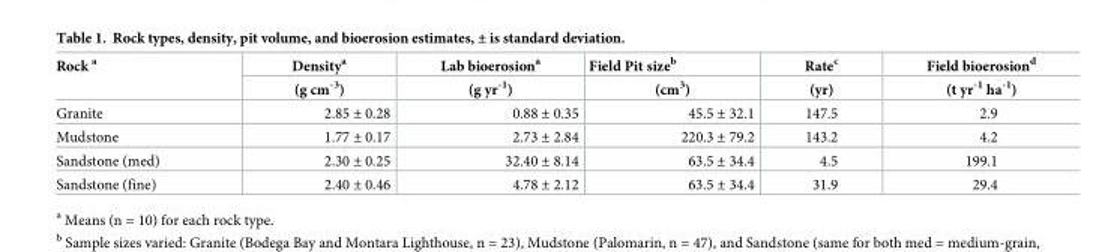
<table><thead><tr><td rowspan="2">Rock <sup>a</sup></td><td rowspan="2">Density<sup>a</sup> (g cm<sup>-3</sup>)</td><td rowspan="2">Lab bioerosion<sup>a</sup> (g yr<sup>-1</sup>)</td><td rowspan="2">Field Pit size<sup>b</sup> (cm<sup>3</sup>)</td><td rowspan="2">Rate<sup>c</sup> (yr)</td><td rowspan="2">Field bioerosion<sup>d</sup> (t yr<sup>-1</sup> ha<sup>-1</sup>)</td></tr><tr></tr></thead><tbody><tr><td>Granite</td><td>2.85 ± 0.28</td><td>0.88 ± 0.35</td><td>45.5 ± 32.1</td><td>147.5</td><td>2.9</td></tr><tr><td>Mudstone</td><td>1.77 ± 0.17</td><td>2.73 ± 2.84</td><td>220.3 ± 79.2</td><td>143.2</td><td>4.2</td></tr><tr><td>Sandstone (med)</td><td>2.30 ± 0.25</td><td>32.40 ± 8.14</td><td>63.5 ± 34.4</td><td>4.5</td><td>199.1</td></tr><tr><td>Sandstone (fine)</td><td>2.40 ± 0.46</td><td>4.78 ± 2.12</td><td>63.5 ± 34.4</td><td>31.9</td><td>29.4</td></tr></tbody></table>